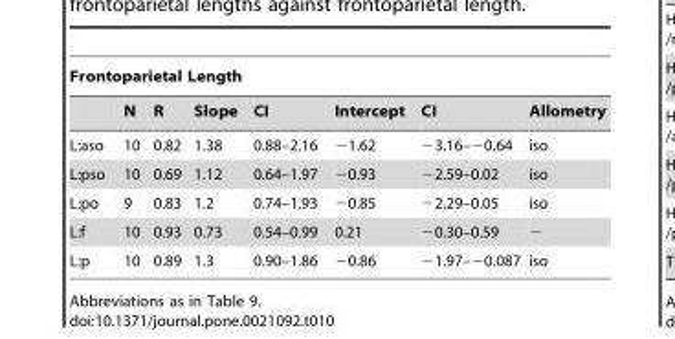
<table><thead><tr><td colspan="8">Frontoparietal Length</td></tr><tr><td></td><td>N</td><td>R</td><td>Slope</td><td>CI</td><td>Intercept</td><td>CI</td><td>Allometry</td></tr></thead><tbody><tr><td>L:aso</td><td>10</td><td>0.82</td><td>1.38</td><td>0.88–2.16</td><td>−1.62</td><td>−3.16–−0.64</td><td>iso</td></tr><tr><td>L:pso</td><td>10</td><td>0.69</td><td>1.12</td><td>0.64–1.97</td><td>−0.93</td><td>−2.59–0.02</td><td>iso</td></tr><tr><td>L:po</td><td>9</td><td>0.83</td><td>1.2</td><td>0.74–1.93</td><td>−0.85</td><td>−2.29–0.05</td><td>iso</td></tr><tr><td>L:f</td><td>10</td><td>0.93</td><td>0.73</td><td>0.54–0.99</td><td>0.21</td><td>−0.30–0.59</td><td>−</td></tr><tr><td>L:p</td><td>10</td><td>0.89</td><td>1.3</td><td>0.90–1.86</td><td>−0.86</td><td>−1.97–−0.087</td><td>iso</td></tr></tbody></table>